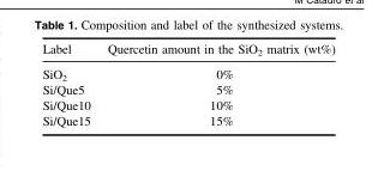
<table><thead><tr><td>Label</td><td>Quercetin amount in the SiO<sub>2</sub> matrix (wt%)</td></tr></thead><tbody><tr><td>SiO<sub>2</sub></td><td>0%</td></tr><tr><td>Si/Que5</td><td>5%</td></tr><tr><td>Si/Que10</td><td>10%</td></tr><tr><td>Si/Que15</td><td>15%</td></tr></tbody></table>